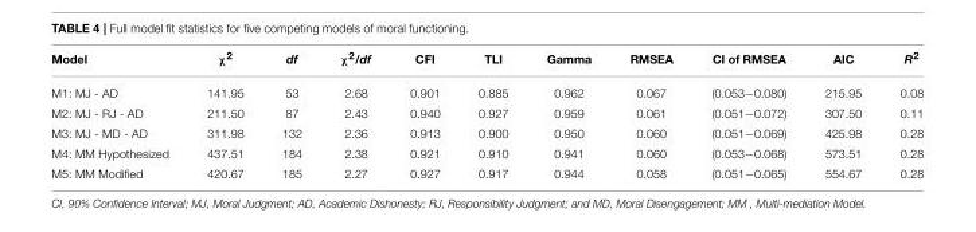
<table><thead><tr><td>Model</td><td>χ<sup>2</sup></td><td>df</td><td>χ<sup>2</sup>/df</td><td>CFI</td><td>TLI</td><td>Gamma</td><td>RMSEA</td><td>CI of RMSEA</td><td>AIC</td><td>R<sup>2</sup></td></tr></thead><tbody><tr><td>M1: MJ - AD</td><td>141.95</td><td>53</td><td>2.68</td><td>0.901</td><td>0.885</td><td>0.962</td><td>0.067</td><td>(0.053−0.080)</td><td>215.95</td><td>0.08</td></tr><tr><td>M2: MJ - RJ - AD</td><td>211.50</td><td>87</td><td>2.43</td><td>0.940</td><td>0.927</td><td>0.959</td><td>0.061</td><td>(0.051−0.072)</td><td>307.50</td><td>0.11</td></tr><tr><td>M3: MJ - MD - AD</td><td>311.98</td><td>132</td><td>2.36</td><td>0.913</td><td>0.900</td><td>0.950</td><td>0.060</td><td>(0.051−0.069)</td><td>425.98</td><td>0.28</td></tr><tr><td>M4: MM Hypothesized</td><td>437.51</td><td>184</td><td>2.38</td><td>0.921</td><td>0.910</td><td>0.941</td><td>0.060</td><td>(0.053−0.068)</td><td>573.51</td><td>0.28</td></tr><tr><td>M5: MM Modified</td><td>420.67</td><td>185</td><td>2.27</td><td>0.927</td><td>0.917</td><td>0.944</td><td>0.058</td><td>(0.051−0.065)</td><td>554.67</td><td>0.28</td></tr></tbody></table>